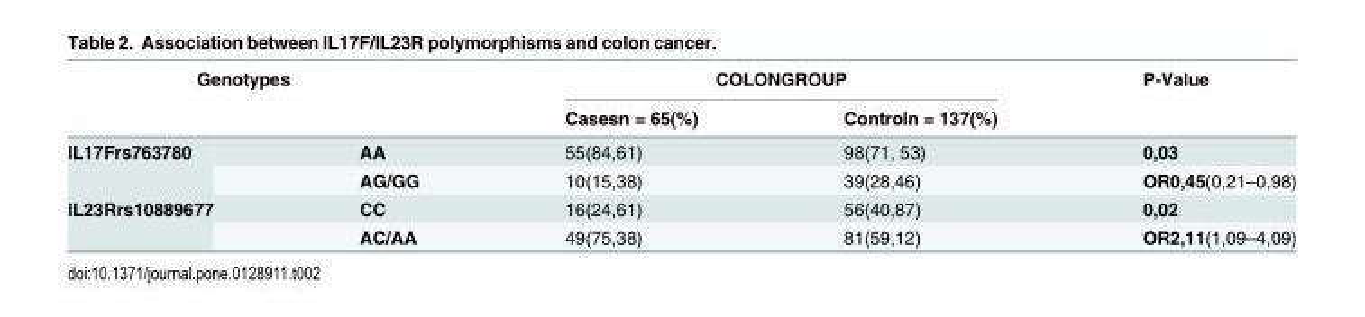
<table><thead><tr><td colspan="2">Genotypes</td><td colspan="2">COLONGROUP</td><td rowspan="2">P-Value</td></tr><tr><td></td><td></td><td>Casesn = 65(%)</td><td>Controln = 137(%)</td></tr></thead><tbody><tr><td rowspan="2">IL17Frs763780</td><td>AA</td><td>55(84,61)</td><td>98(71, 53)</td><td>0,03</td></tr><tr><td>AG/GG</td><td>10(15,38)</td><td>39(28,46)</td><td>OR0,45(0,21–0,98)</td></tr><tr><td rowspan="2">IL23Rrs10889677</td><td>CC</td><td>16(24,61)</td><td>56(40,87)</td><td>0,02</td></tr><tr><td>AC/AA</td><td>49(75,38)</td><td>81(59,12)</td><td>OR2,11(1,09–4,09)</td></tr></tbody></table>